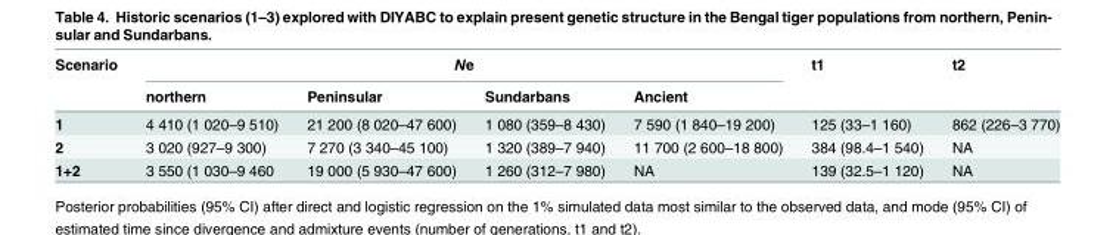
<table><thead><tr><td rowspan="2">Scenario</td><td colspan="4">Ne</td><td rowspan="2">t1</td><td rowspan="2">t2</td></tr><tr><td>northern</td><td>Peninsular</td><td>Sundarbans</td><td>Ancient</td></tr></thead><tbody><tr><td>1</td><td>4 410 (1 020–9 510)</td><td>21 200 (8 020–47 600)</td><td>1 080 (359–8 430)</td><td>7 590 (1 840–19 200)</td><td>125 (33–1 160)</td><td>862 (226–3 770)</td></tr><tr><td>2</td><td>3 020 (927–9 300)</td><td>7 270 (3 340–45 100)</td><td>1 320 (389–7 940)</td><td>11 700 (2 600–18 800)</td><td>384 (98.4–1 540)</td><td>NA</td></tr><tr><td>1+2</td><td>3 550 (1 030–9 460</td><td>19 000 (5 930–47 600)</td><td>1 260 (312–7 980)</td><td>NA</td><td>139 (32.5–1 120)</td><td>NA</td></tr></tbody></table>